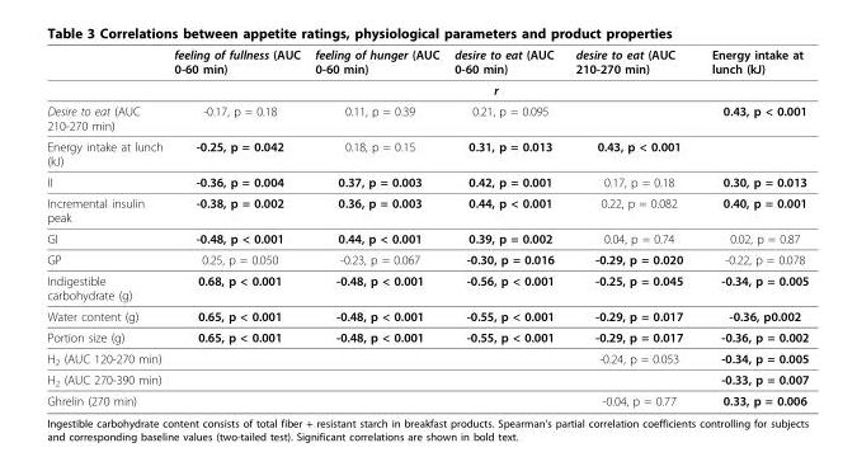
<table><thead><tr><td></td><td>feeling of fullness (AUC 0-60 min)</td><td>feeling of hunger (AUC 0-60 min)</td><td>desire to eat (AUC 0-60 min)</td><td>desire to eat (AUC 210-270 min)</td><td>Energy intake at lunch (kJ)</td></tr></thead><tbody><tr><td></td><td colspan="5">r</td></tr><tr><td>Desire to eat (AUC 210-270 min)</td><td>-0.17, p = 0.18</td><td>0.11, p = 0.39</td><td>0.21, p = 0.095</td><td></td><td>0.43, p &lt; 0.001</td></tr><tr><td>Energy intake at lunch (kJ)</td><td>-0.25, p = 0.042</td><td>0.18, p = 0.15</td><td>0.31, p = 0.013</td><td>0.43, p &lt; 0.001</td><td></td></tr><tr><td>II</td><td>-0.36, p = 0.004</td><td>0.37, p = 0.003</td><td>0.42, p = 0.001</td><td>0.17, p = 0.18</td><td>0.30, p = 0.013</td></tr><tr><td>Incremental insulin peak</td><td>-0.38, p = 0.002</td><td>0.36, p = 0.003</td><td>0.44, p &lt; 0.001</td><td>0.22, p = 0.082</td><td>0.40, p = 0.001</td></tr><tr><td>GI</td><td>-0.48, p &lt; 0.001</td><td>0.44, p &lt; 0.001</td><td>0.39, p = 0.002</td><td>0.04, p = 0.74</td><td>0.02, p = 0.87</td></tr><tr><td>GP</td><td>0.25, p = 0.050</td><td>-0.23, p = 0.067</td><td>-0.30, p = 0.016</td><td>-0.29, p = 0.020</td><td>-0.22, p = 0.078</td></tr><tr><td>Indigestible carbohydrate (g)</td><td>0.68, p &lt; 0.001</td><td>-0.48, p &lt; 0.001</td><td>-0.56, p &lt; 0.001</td><td>-0.25, p = 0.045</td><td>-0.34, p = 0.005</td></tr><tr><td>Water content (g)</td><td>0.65, p &lt; 0.001</td><td>-0.48, p &lt; 0.001</td><td>-0.55, p &lt; 0.001</td><td>-0.29, p = 0.017</td><td>-0.36, p0.002</td></tr><tr><td>Portion size (g)</td><td>0.65, p &lt; 0.001</td><td>-0.48, p &lt; 0.001</td><td>-0.55, p &lt; 0.001</td><td>-0.29, p = 0.017</td><td>-0.36, p = 0.002</td></tr><tr><td>H<sub>2</sub> (AUC 120-270 min)</td><td></td><td></td><td></td><td>-0.24, p = 0.053</td><td>-0.34, p = 0.005</td></tr><tr><td>H<sub>2</sub> (AUC 270-390 min)</td><td></td><td></td><td></td><td></td><td>-0.33, p = 0.007</td></tr><tr><td>Ghrelin (270 min)</td><td></td><td></td><td></td><td>-0.04, p = 0.77</td><td>0.33, p = 0.006</td></tr></tbody></table>